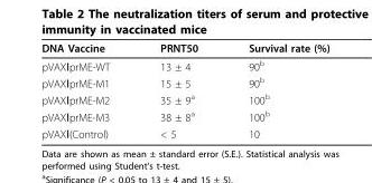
<table><thead><tr><td>DNA Vaccine</td><td>PRNT50</td><td>Survival rate (%)</td></tr></thead><tbody><tr><td>pVAXⅠprME-WT</td><td>13 ± 4</td><td>90<sup>b</sup></td></tr><tr><td>pVAXⅠprME-M1</td><td>15 ± 5</td><td>90<sup>b</sup></td></tr><tr><td>pVAXⅠprME-M2</td><td>35 ± 9<sup>a</sup></td><td>100<sup>b</sup></td></tr><tr><td>pVAXⅠprME-M3</td><td>38 ± 8<sup>a</sup></td><td>100<sup>b</sup></td></tr><tr><td>pVAXⅠ(Control)</td><td>&lt; 5</td><td>10</td></tr></tbody></table>